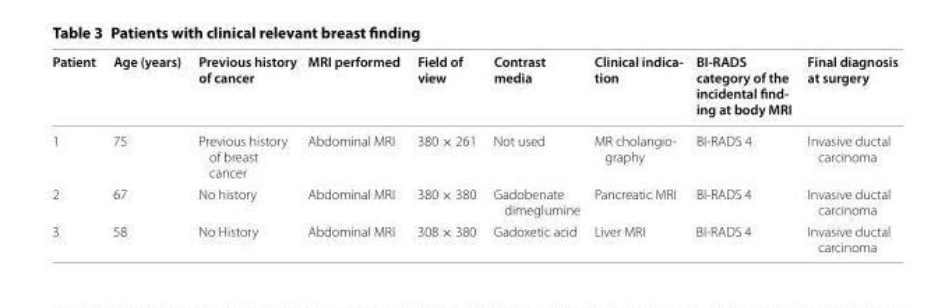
<table><thead><tr><td>Patient</td><td>Age (years)</td><td>Previous history of cancer</td><td>MRI performed</td><td>Field of view</td><td>Contrast media</td><td>Clinical indica- tion</td><td>BI-RADS category of the incidental find- ing at body MRI</td><td>Final diagnosis at surgery</td></tr></thead><tbody><tr><td>1</td><td>75</td><td>Previous history of breast cancer</td><td>Abdominal MRI</td><td>380 × 261</td><td>Not used</td><td>MR cholangio- graphy</td><td>BI-RADS 4</td><td>Invasive ductal carcinoma</td></tr><tr><td>2</td><td>67</td><td>No history</td><td>Abdominal MRI</td><td>380 × 380</td><td>Gadobenate dimeglumine</td><td>Pancreatic MRI</td><td>BI-RADS 4</td><td>Invasive ductal carcinoma</td></tr><tr><td>3</td><td>58</td><td>No History</td><td>Abdominal MRI</td><td>308 × 380</td><td>Gadoxetic acid</td><td>Liver MRI</td><td>BI-RADS 4</td><td>Invasive ductal carcinoma</td></tr></tbody></table>